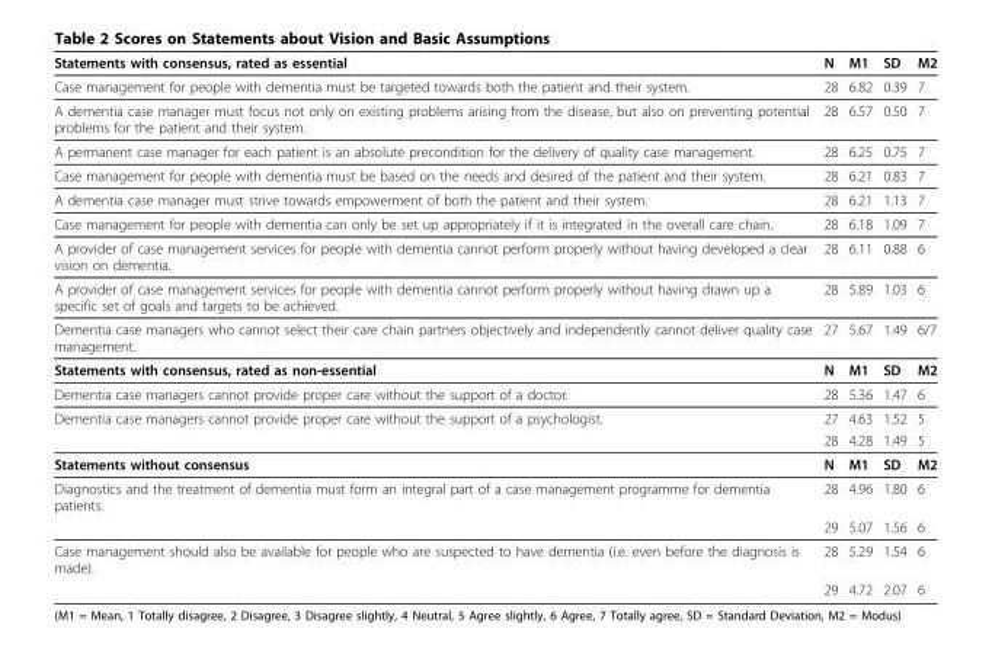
<table><thead><tr><td>Statements with consensus, rated as essential</td><td>N</td><td>M1</td><td>SD</td><td>M2</td></tr></thead><tbody><tr><td>Case management for people with dementia must be targeted towards both the patient and their system.</td><td>28</td><td>6.82</td><td>0.39</td><td>7</td></tr><tr><td>A dementia case manager must focus not only on existing problems arising from the disease, but also on preventing potential problems for the patient and their system.</td><td>28</td><td>6.57</td><td>0.50</td><td>7</td></tr><tr><td>A permanent case manager for each patient is an absolute precondition for the delivery of quality case management.</td><td>28</td><td>6.25</td><td>0.75</td><td>7</td></tr><tr><td>Case management for people with dementia must be based on the needs and desired of the patient and their system.</td><td>28</td><td>6.21</td><td>0.83</td><td>7</td></tr><tr><td>A dementia case manager must strive towards empowerment of both the patient and their system.</td><td>28</td><td>6.21</td><td>1.13</td><td>7</td></tr><tr><td>Case management for people with dementia can only be set up appropriately if it is integrated in the overall care chain.</td><td>28</td><td>6.18</td><td>1.09</td><td>7</td></tr><tr><td>A provider of case management services for people with dementia cannot perform properly without having developed a clear vision on dementia.</td><td>28</td><td>6.11</td><td>0.88</td><td>6</td></tr><tr><td>A provider of case management services for people with dementia cannot perform properly without having drawn up a specific set of goals and targets to be achieved.</td><td>28</td><td>5.89</td><td>1.03</td><td>6</td></tr><tr><td>Dementia case managers who cannot select their care chain partners objectively and independently cannot deliver quality case management.</td><td>27</td><td>5.67</td><td>1.49</td><td>6/7</td></tr><tr><td>Statements with consensus, rated as non-essential</td><td>N</td><td>M1</td><td>SD</td><td>M2</td></tr><tr><td>Dementia case managers cannot provide proper care without the support of a doctor.</td><td>28</td><td>5.36</td><td>1.47</td><td>6</td></tr><tr><td rowspan="2">Dementia case managers cannot provide proper care without the support of a psychologist.</td><td>27</td><td>4.63</td><td>1.52</td><td>5</td></tr><tr><td>28</td><td>4.28</td><td>1.49</td><td>5</td></tr><tr><td>Statements without consensus</td><td>N</td><td>M1</td><td>SD</td><td>M2</td></tr><tr><td rowspan="2">Diagnostics and the treatment of dementia must form an integral part of a case management programme for dementia patients.</td><td>28</td><td>4.96</td><td>1.80</td><td>6</td></tr><tr><td>29</td><td>5.07</td><td>1.56</td><td>6</td></tr><tr><td rowspan="2">Case management should also be available for people who are suspected to have dementia (i.e. even before the diagnosis is made).</td><td>28</td><td>5.29</td><td>1.54</td><td>6</td></tr><tr><td>29</td><td>4.72</td><td>2.07</td><td>6</td></tr></tbody></table>